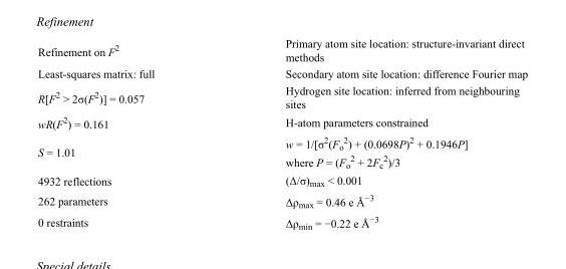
<table><tbody><tr><td>Refinement on F<sup>2</sup></td><td>Primary atom site location: structure-invariant direct methods</td></tr><tr><td>Least-squares matrix: full</td><td>Secondary atom site location: difference Fourier map</td></tr><tr><td>R[F<sup>2</sup> &gt; 2σ(F<sup>2</sup>)] = 0.057</td><td>Hydrogen site location: inferred from neighbouring sites</td></tr><tr><td>wR(F<sup>2</sup>) = 0.161</td><td>H-atom parameters constrained</td></tr><tr><td>S = 1.01</td><td>w = 1/[σ<sup>2</sup>(F<sub>o</sub> <sup>2</sup>) + (0.0698P)<sup>2</sup> + 0.1946P] where P = (F<sub>o</sub> <sup>2</sup> + 2F<sub>c</sub> <sup>2</sup>)/3</td></tr><tr><td>4932 reflections</td><td>(Δ/σ)<sub>max</sub> &lt; 0.001</td></tr><tr><td>262 parameters</td><td>Δρ<sub>max</sub> = 0.46 e Å<sup>−3</sup></td></tr><tr><td>0 restraints</td><td>Δρ<sub>min</sub> = −0.22 e Å<sup>−3</sup></td></tr></tbody></table>